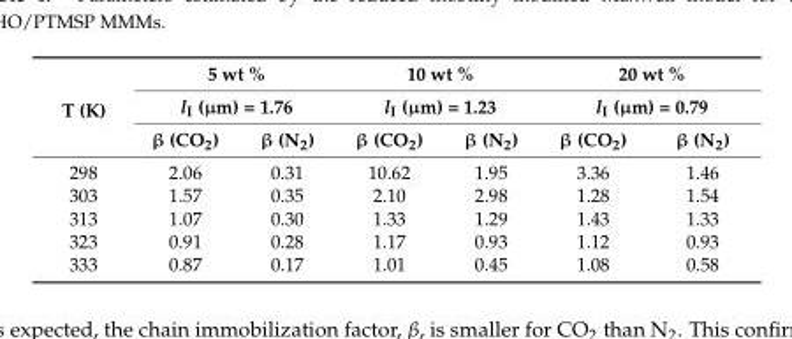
<table><thead><tr><td rowspan="3">T (K)</td><td rowspan="2" colspan="2">5 wt % l<sub>I</sub> (µm) = 1.76</td><td rowspan="2" colspan="2">10 wt % l<sub>I</sub> (µm) = 1.23</td><td rowspan="2" colspan="2">20 wt % l<sub>I</sub> (µm) = 0.79</td></tr><tr></tr><tr><td>β (CO<sub>2</sub>)</td><td>β (N<sub>2</sub>)</td><td>β (CO<sub>2</sub>)</td><td>β (N<sub>2</sub>)</td><td>β (CO<sub>2</sub>)</td><td>β (N<sub>2</sub>)</td></tr></thead><tbody><tr><td>298</td><td>2.06</td><td>0.31</td><td>10.62</td><td>1.95</td><td>3.36</td><td>1.46</td></tr><tr><td>303</td><td>1.57</td><td>0.35</td><td>2.10</td><td>2.98</td><td>1.28</td><td>1.54</td></tr><tr><td>313</td><td>1.07</td><td>0.30</td><td>1.33</td><td>1.29</td><td>1.43</td><td>1.33</td></tr><tr><td>323</td><td>0.91</td><td>0.28</td><td>1.17</td><td>0.93</td><td>1.12</td><td>0.93</td></tr><tr><td>333</td><td>0.87</td><td>0.17</td><td>1.01</td><td>0.45</td><td>1.08</td><td>0.58</td></tr></tbody></table>